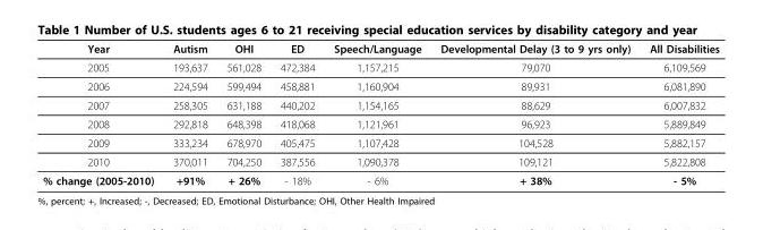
<table><thead><tr><td>Year</td><td>Autism</td><td>OHI</td><td>ED</td><td>Speech/Language</td><td>Developmental Delay (3 to 9 yrs only)</td><td>All Disabilities</td></tr></thead><tbody><tr><td>2005</td><td>193,637</td><td>561,028</td><td>472,384</td><td>1,157,215</td><td>79,070</td><td>6,109,569</td></tr><tr><td>2006</td><td>224,594</td><td>599,494</td><td>458,881</td><td>1,160,904</td><td>89,931</td><td>6,081,890</td></tr><tr><td>2007</td><td>258,305</td><td>631,188</td><td>440,202</td><td>1,154,165</td><td>88,629</td><td>6,007,832</td></tr><tr><td>2008</td><td>292,818</td><td>648,398</td><td>418,068</td><td>1,121,961</td><td>96,923</td><td>5,889,849</td></tr><tr><td>2009</td><td>333,234</td><td>678,970</td><td>405,475</td><td>1,107,428</td><td>104,528</td><td>5,882,157</td></tr><tr><td>2010</td><td>370,011</td><td>704,250</td><td>387,556</td><td>1,090,378</td><td>109,121</td><td>5,822,808</td></tr><tr><td>% change (2005-2010)</td><td>+91%</td><td>+ 26%</td><td>- 18%</td><td>- 6%</td><td>+ 38%</td><td>- 5%</td></tr></tbody></table>